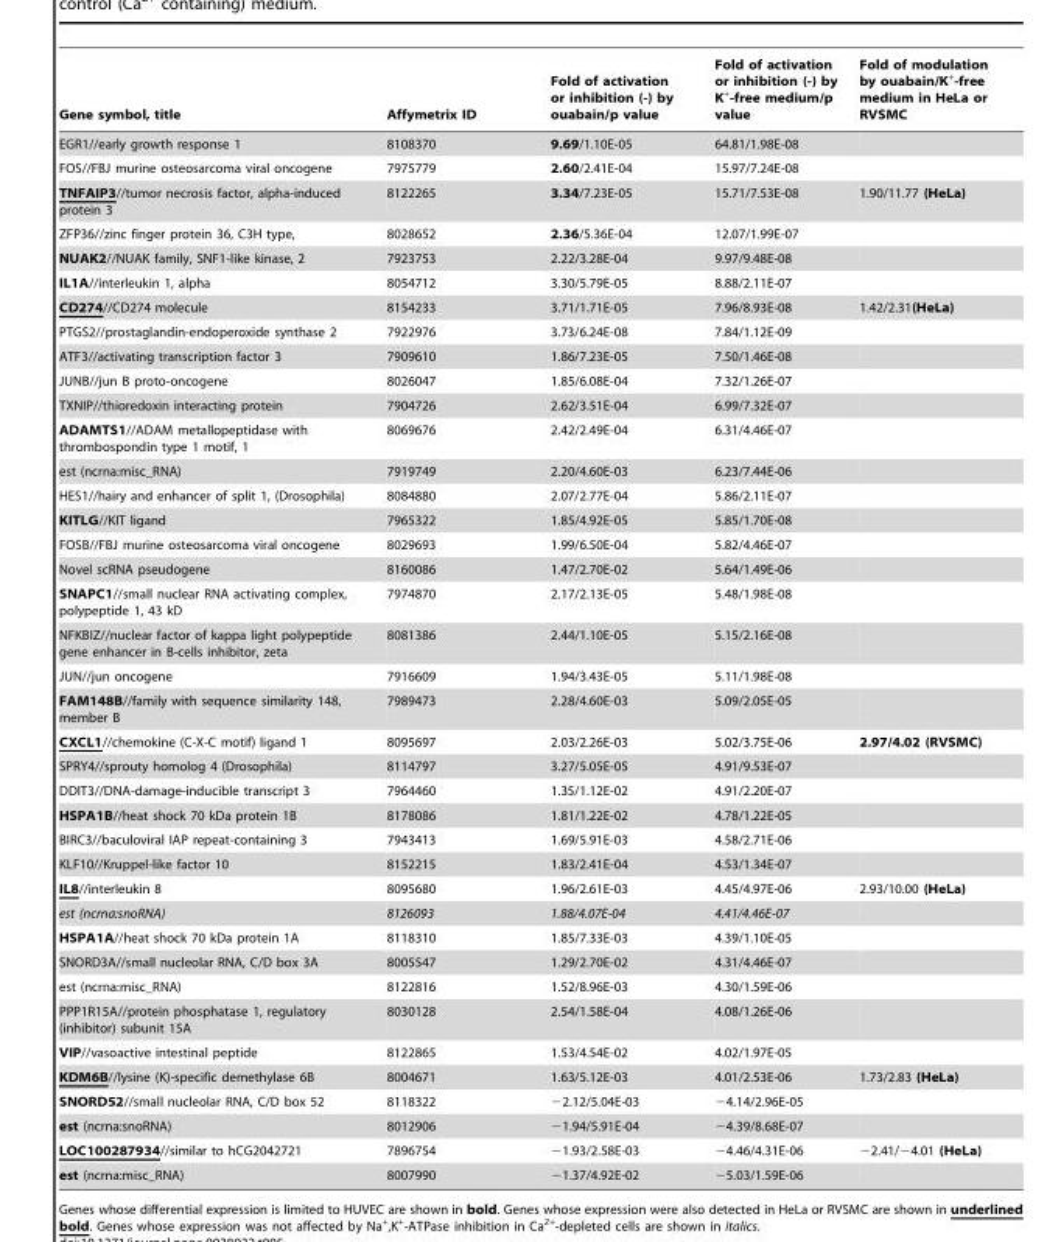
<table><thead><tr><td>Gene symbol, title</td><td>Affymetrix ID</td><td>Fold of activation or inhibition (-) by ouabain/p value</td><td>Fold of activation or inhibition (-) by K<sup>+</sup>-free medium/p value</td><td>Fold of modulation by ouabain/K<sup>+</sup>-free medium in HeLa or RVSMC</td></tr></thead><tbody><tr><td>EGR1//early growth response 1</td><td>8108370</td><td>9.69/1.10E-05</td><td>64.81/1.98E-08</td><td></td></tr><tr><td>FOS//FBJ murine osteosarcoma viral oncogene</td><td>7975779</td><td>2.60/2.41E-04</td><td>15.97/7.24E-08</td><td></td></tr><tr><td>TNFAIP3//tumor necrosis factor, alpha-induced protein 3</td><td>8122265</td><td>3.34/7.23E-05</td><td>15.71/7.53E-08</td><td>1.90/11.77 (HeLa)</td></tr><tr><td>ZFP36//zinc finger protein 36, C3H type,</td><td>8028652</td><td>2.36/5.36E-04</td><td>12.07/1.99E-07</td><td></td></tr><tr><td>NUAK2//NUAK family, SNF1-like kinase, 2</td><td>7923753</td><td>2.22/3.28E-04</td><td>9.97/9.48E-08</td><td></td></tr><tr><td>IL1A//interleukin 1, alpha</td><td>8054712</td><td>3.30/5.79E-05</td><td>8.88/2.11E-07</td><td></td></tr><tr><td>CD274//CD274 molecule</td><td>8154233</td><td>3.71/1.71E-05</td><td>7.96/8.93E-08</td><td>1.42/2.31(HeLa)</td></tr><tr><td>PTGS2//prostaglandin-endoperoxide synthase 2</td><td>7922976</td><td>3.73/6.24E-08</td><td>7.84/1.12E-09</td><td></td></tr><tr><td>ATF3//activating transcription factor 3</td><td>7909610</td><td>1.86/7.23E-05</td><td>7.50/1.46E-08</td><td></td></tr><tr><td>JUNB//jun B proto-oncogene</td><td>8026047</td><td>1.85/6.08E-04</td><td>7.32/1.26E-07</td><td></td></tr><tr><td>TXNIP//thioredoxin interacting protein</td><td>7904726</td><td>2.62/3.51E-04</td><td>6.99/7.32E-07</td><td></td></tr><tr><td>ADAMTS1//ADAM metallopeptidase with thrombospondin type 1 motif, 1</td><td>8069676</td><td>2.42/2.49E-04</td><td>6.31/4.46E-07</td><td></td></tr><tr><td>est (ncrna:misc_RNA)</td><td>7919749</td><td>2.20/4.60E-03</td><td>6.23/7.44E-06</td><td></td></tr><tr><td>HES1//hairy and enhancer of split 1, (Drosophila)</td><td>8084880</td><td>2.07/2.77E-04</td><td>5.86/2.11E-07</td><td></td></tr><tr><td>KITLG//KIT ligand</td><td>7965322</td><td>1.85/4.92E-05</td><td>5.85/1.70E-08</td><td></td></tr><tr><td>FOSB//FBJ murine osteosarcoma viral oncogene</td><td>8029693</td><td>1.99/6.50E-04</td><td>5.82/4.46E-07</td><td></td></tr><tr><td>Novel scRNA pseudogene</td><td>8160086</td><td>1.47/2.70E-02</td><td>5.64/1.49E-06</td><td></td></tr><tr><td>SNAPC1//small nuclear RNA activating complex, polypeptide 1, 43 kD</td><td>7974870</td><td>2.17/2.13E-05</td><td>5.48/1.98E-08</td><td></td></tr><tr><td>NFKBIZ//nuclear factor of kappa light polypeptide gene enhancer in B-cells inhibitor, zeta</td><td>8081386</td><td>2.44/1.10E-05</td><td>5.15/2.16E-08</td><td></td></tr><tr><td>JUN//jun oncogene</td><td>7916609</td><td>1.94/3.43E-05</td><td>5.11/1.98E-08</td><td></td></tr><tr><td>FAM148B//family with sequence similarity 148, member B</td><td>7989473</td><td>2.28/4.60E-03</td><td>5.09/2.05E-05</td><td></td></tr><tr><td>CXCL1//chemokine (C-X-C motif) ligand 1</td><td>8095697</td><td>2.03/2.26E-03</td><td>5.02/3.75E-06</td><td>2.97/4.02 (RVSMC)</td></tr><tr><td>SPRY4//sprouty homolog 4 (Drosophila)</td><td>8114797</td><td>3.27/5.05E-05</td><td>4.91/9.53E-07</td><td></td></tr><tr><td>DDIT3//DNA-damage-inducible transcript 3</td><td>7964460</td><td>1.35/1.12E-02</td><td>4.91/2.20E-07</td><td></td></tr><tr><td>HSPA1B//heat shock 70 kDa protein 1B</td><td>8178086</td><td>1.81/1.22E-02</td><td>4.78/1.22E-05</td><td></td></tr><tr><td>BIRC3//baculoviral IAP repeat-containing 3</td><td>7943413</td><td>1.69/5.91E-03</td><td>4.58/2.71E-06</td><td></td></tr><tr><td>KLF10//Kruppel-like factor 10</td><td>8152215</td><td>1.83/2.41E-04</td><td>4.53/1.34E-07</td><td></td></tr><tr><td>IL8//interleukin 8</td><td>8095680</td><td>1.96/2.61E-03</td><td>4.45/4.97E-06</td><td>2.93/10.00 (HeLa)</td></tr><tr><td>est (ncrna:snoRNA)</td><td>8126093</td><td>1.88/4.07E-04</td><td>4.41/4.46E-07</td><td></td></tr><tr><td>HSPA1A//heat shock 70 kDa protein 1A</td><td>8118310</td><td>1.85/7.33E-03</td><td>4.39/1.10E-05</td><td></td></tr><tr><td>SNORD3A//small nucleolar RNA, C/D box 3A</td><td>8005547</td><td>1.29/2.70E-02</td><td>4.31/4.46E-07</td><td></td></tr><tr><td>est (ncrna:misc_RNA)</td><td>8122816</td><td>1.52/8.96E-03</td><td>4.30/1.59E-06</td><td></td></tr><tr><td>PPP1R15A//protein phosphatase 1, regulatory (inhibitor) subunit 15A</td><td>8030128</td><td>2.54/1.58E-04</td><td>4.08/1.26E-06</td><td></td></tr><tr><td>VIP//vasoactive intestinal peptide</td><td>8122865</td><td>1.53/4.54E-02</td><td>4.02/1.97E-05</td><td></td></tr><tr><td>KDM6B//lysine (K)-specific demethylase 6B</td><td>8004671</td><td>1.63/5.12E-03</td><td>4.01/2.53E-06</td><td>1.73/2.83 (HeLa)</td></tr><tr><td>SNORD52//small nucleolar RNA, C/D box 52</td><td>8118322</td><td>−2.12/5.04E-03</td><td>−4.14/2.96E-05</td><td></td></tr><tr><td>est (ncrna:snoRNA)</td><td>8012906</td><td>−1.94/5.91E-04</td><td>−4.39/8.68E-07</td><td></td></tr><tr><td>LOC100287934//similar to hCG2042721</td><td>7896754</td><td>−1.93/2.58E-03</td><td>−4.46/4.31E-06</td><td>−2.41/−4.01 (HeLa)</td></tr><tr><td>est (ncrna:misc_RNA)</td><td>8007990</td><td>−1.37/4.92E-02</td><td>−5.03/1.59E-06</td><td></td></tr></tbody></table>